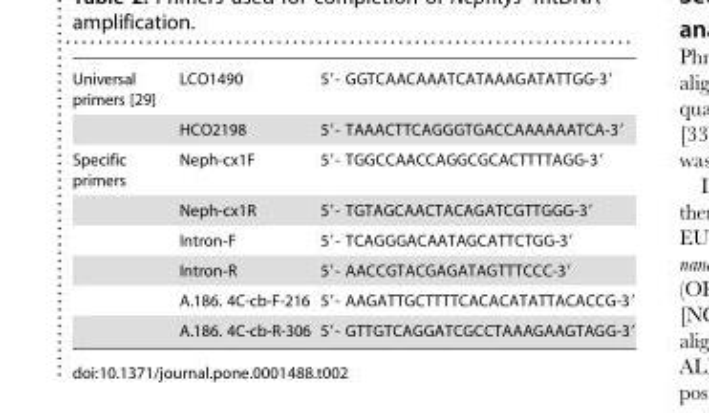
<table><tbody><tr><td rowspan="2">Universal primers [29]</td><td>LCO1490</td><td>5′- GGTCAACAAATCATAAAGATATTGG-3′</td></tr><tr><td>HCO2198</td><td>5′- TAAACTTCAGGGTGACCAAAAAATCA-3′</td></tr><tr><td rowspan="6">Specific primers</td><td>Neph-cx1F</td><td>5′- TGGCCAACCAGGCGCACTTTTAGG-3′</td></tr><tr><td>Neph-cx1R</td><td>5′- TGTAGCAACTACAGATCGTTGGG-3′</td></tr><tr><td>Intron-F</td><td>5′- TCAGGGACAATAGCATTCTGG-3′</td></tr><tr><td>Intron-R</td><td>5′- AACCGTACGAGATAGTTTCCC-3′</td></tr><tr><td>A.186. 4C-cb-F-216</td><td>5′- AAGATTGCTTTTCACACATATTACACCG-3′</td></tr><tr><td>A.186. 4C-cb-R-306</td><td>5′- GTTGTCAGGATCGCCTAAAGAAGTAGG-3′</td></tr></tbody></table>